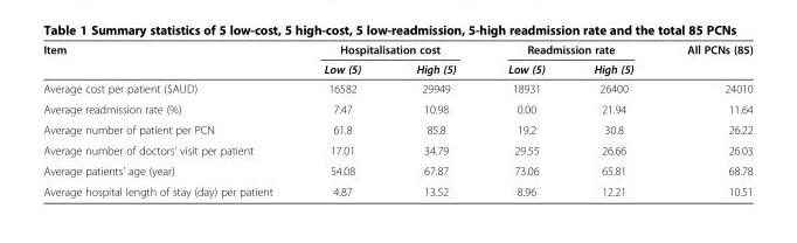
<table><thead><tr><td rowspan="2">Item</td><td colspan="2">Hospitalisation cost</td><td colspan="2">Readmission rate</td><td rowspan="2">All PCNs (85)</td></tr><tr><td>Low (5)</td><td>High (5)</td><td>Low (5)</td><td>High (5)</td></tr></thead><tbody><tr><td>Average cost per patient ($AUD)</td><td>16582</td><td>29949</td><td>18931</td><td>26400</td><td>24010</td></tr><tr><td>Average readmission rate (%)</td><td>7.47</td><td>10.98</td><td>0.00</td><td>21.94</td><td>11.64</td></tr><tr><td>Average number of patient per PCN</td><td>61.8</td><td>85.8</td><td>19.2</td><td>30.8</td><td>26.22</td></tr><tr><td>Average number of doctors’ visit per patient</td><td>17.01</td><td>34.79</td><td>29.55</td><td>26.66</td><td>26.03</td></tr><tr><td>Average patients’ age (year)</td><td>54.08</td><td>67.87</td><td>73.06</td><td>65.81</td><td>68.78</td></tr><tr><td>Average hospital length of stay (day) per patient</td><td>4.87</td><td>13.52</td><td>8.96</td><td>12.21</td><td>10.51</td></tr></tbody></table>